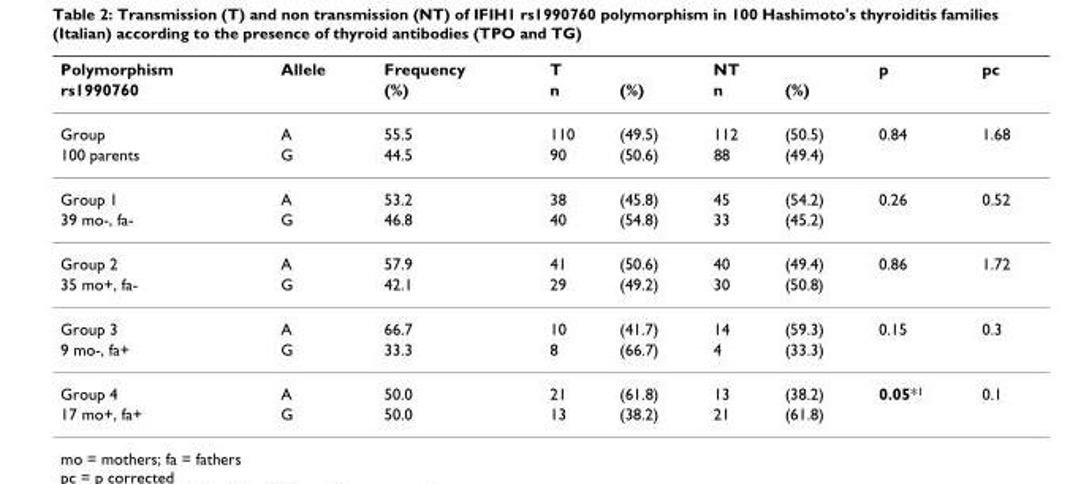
<table><thead><tr><td rowspan="2">Polymorphism rs1990760</td><td rowspan="2">Allele</td><td rowspan="2">Frequency (%)</td><td rowspan="2">T n</td><td rowspan="2">(%)</td><td rowspan="2">NT n</td><td rowspan="2">(%)</td><td rowspan="2">p</td><td rowspan="2">pc</td></tr><tr></tr></thead><tbody><tr><td>Group</td><td>A</td><td>55.5</td><td>110</td><td>(49.5)</td><td>112</td><td>(50.5)</td><td>0.84</td><td>1.68</td></tr><tr><td>100 parents</td><td>G</td><td>44.5</td><td>90</td><td>(50.6)</td><td>88</td><td>(49.4)</td><td></td><td></td></tr><tr><td>Group 1</td><td>A</td><td>53.2</td><td>38</td><td>(45.8)</td><td>45</td><td>(54.2)</td><td>0.26</td><td>0.52</td></tr><tr><td>39 mo-, fa-</td><td>G</td><td>46.8</td><td>40</td><td>(54.8)</td><td>33</td><td>(45.2)</td><td></td><td></td></tr><tr><td>Group 2</td><td>A</td><td>57.9</td><td>41</td><td>(50.6)</td><td>40</td><td>(49.4)</td><td>0.86</td><td>1.72</td></tr><tr><td>35 mo+, fa-</td><td>G</td><td>42.1</td><td>29</td><td>(49.2)</td><td>30</td><td>(50.8)</td><td></td><td></td></tr><tr><td>Group 3</td><td>A</td><td>66.7</td><td>10</td><td>(41.7)</td><td>14</td><td>(59.3)</td><td>0.15</td><td>0.3</td></tr><tr><td>9 mo-, fa+</td><td>G</td><td>33.3</td><td>8</td><td>(66.7)</td><td>4</td><td>(33.3)</td><td></td><td></td></tr><tr><td>Group 4</td><td>A</td><td>50.0</td><td>21</td><td>(61.8)</td><td>13</td><td>(38.2)</td><td>0.05*<sup>1</sup></td><td>0.1</td></tr><tr><td>17 mo+, fa+</td><td>G</td><td>50.0</td><td>13</td><td>(38.2)</td><td>21</td><td>(61.8)</td><td></td><td></td></tr></tbody></table>